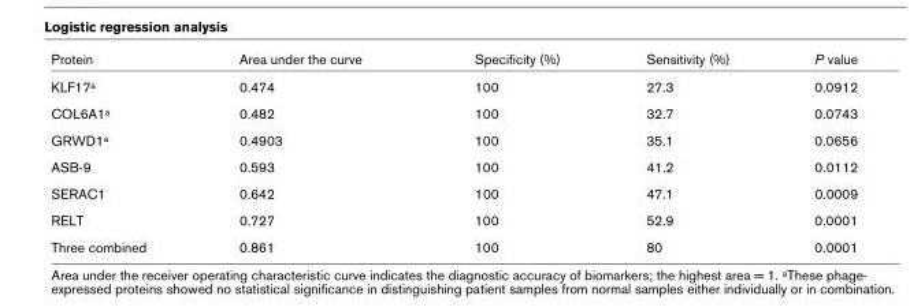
<table><thead><tr><td>Protein</td><td>Area under the curve</td><td>Specificity (%)</td><td>Sensitivity (%)</td><td>P value</td></tr></thead><tbody><tr><td>KLF17<sup>a</sup></td><td>0.474</td><td>100</td><td>27.3</td><td>0.0912</td></tr><tr><td>COL6A1<sup>a</sup></td><td>0.482</td><td>100</td><td>32.7</td><td>0.0743</td></tr><tr><td>GRWD1<sup>a</sup></td><td>0.4903</td><td>100</td><td>35.1</td><td>0.0656</td></tr><tr><td>ASB-9</td><td>0.593</td><td>100</td><td>41.2</td><td>0.0112</td></tr><tr><td>SERAC1</td><td>0.642</td><td>100</td><td>47.1</td><td>0.0009</td></tr><tr><td>RELT</td><td>0.727</td><td>100</td><td>52.9</td><td>0.0001</td></tr><tr><td>Three combined</td><td>0.861</td><td>100</td><td>80</td><td>0.0001</td></tr></tbody></table>